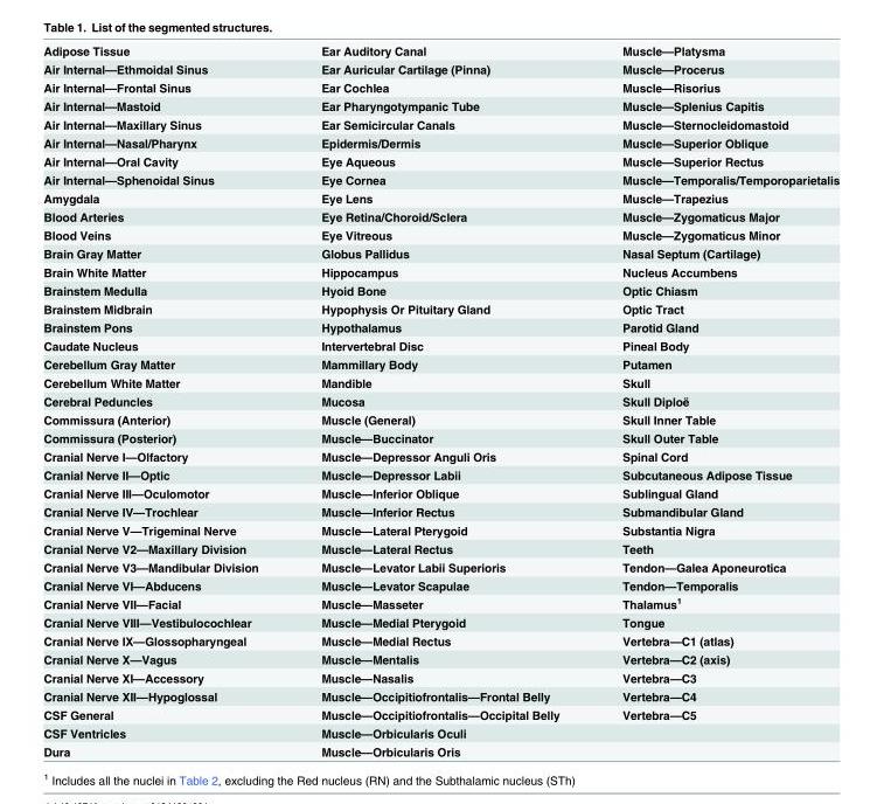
<table><tbody><tr><td>Adipose Tissue</td><td>Ear Auditory Canal</td><td>Muscle—Platysma</td></tr><tr><td>Air Internal—Ethmoidal Sinus</td><td>Ear Auricular Cartilage (Pinna)</td><td>Muscle—Procerus</td></tr><tr><td>Air Internal—Frontal Sinus</td><td>Ear Cochlea</td><td>Muscle—Risorius</td></tr><tr><td>Air Internal—Mastoid</td><td>Ear Pharyngotympanic Tube</td><td>Muscle—Splenius Capitis</td></tr><tr><td>Air Internal—Maxillary Sinus</td><td>Ear Semicircular Canals</td><td>Muscle—Sternocleidomastoid</td></tr><tr><td>Air Internal—Nasal/Pharynx</td><td>Epidermis/Dermis</td><td>Muscle—Superior Oblique</td></tr><tr><td>Air Internal—Oral Cavity</td><td>Eye Aqueous</td><td>Muscle—Superior Rectus</td></tr><tr><td>Air Internal—Sphenoidal Sinus</td><td>Eye Cornea</td><td>Muscle—Temporalis/Temporoparietalis</td></tr><tr><td>Amygdala</td><td>Eye Lens</td><td>Muscle—Trapezius</td></tr><tr><td>Blood Arteries</td><td>Eye Retina/Choroid/Sclera</td><td>Muscle—Zygomaticus Major</td></tr><tr><td>Blood Veins</td><td>Eye Vitreous</td><td>Muscle—Zygomaticus Minor</td></tr><tr><td>Brain Gray Matter</td><td>Globus Pallidus</td><td>Nasal Septum (Cartilage)</td></tr><tr><td>Brain White Matter</td><td>Hippocampus</td><td>Nucleus Accumbens</td></tr><tr><td>Brainstem Medulla</td><td>Hyoid Bone</td><td>Optic Chiasm</td></tr><tr><td>Brainstem Midbrain</td><td>Hypophysis Or Pituitary Gland</td><td>Optic Tract</td></tr><tr><td>Brainstem Pons</td><td>Hypothalamus</td><td>Parotid Gland</td></tr><tr><td>Caudate Nucleus</td><td>Intervertebral Disc</td><td>Pineal Body</td></tr><tr><td>Cerebellum Gray Matter</td><td>Mammillary Body</td><td>Putamen</td></tr><tr><td>Cerebellum White Matter</td><td>Mandible</td><td>Skull</td></tr><tr><td>Cerebral Peduncles</td><td>Mucosa</td><td>Skull Diploë</td></tr><tr><td>Commissura (Anterior)</td><td>Muscle (General)</td><td>Skull Inner Table</td></tr><tr><td>Commissura (Posterior)</td><td>Muscle—Buccinator</td><td>Skull Outer Table</td></tr><tr><td>Cranial Nerve I—Olfactory</td><td>Muscle—Depressor Anguli Oris</td><td>Spinal Cord</td></tr><tr><td>Cranial Nerve II—Optic</td><td>Muscle—Depressor Labii</td><td>Subcutaneous Adipose Tissue</td></tr><tr><td>Cranial Nerve III—Oculomotor</td><td>Muscle—Inferior Oblique</td><td>Sublingual Gland</td></tr><tr><td>Cranial Nerve IV—Trochlear</td><td>Muscle—Inferior Rectus</td><td>Submandibular Gland</td></tr><tr><td>Cranial Nerve V—Trigeminal Nerve</td><td>Muscle—Lateral Pterygoid</td><td>Substantia Nigra</td></tr><tr><td>Cranial Nerve V2—Maxillary Division</td><td>Muscle—Lateral Rectus</td><td>Teeth</td></tr><tr><td>Cranial Nerve V3—Mandibular Division</td><td>Muscle—Levator Labii Superioris</td><td>Tendon—Galea Aponeurotica</td></tr><tr><td>Cranial Nerve VI—Abducens</td><td>Muscle—Levator Scapulae</td><td>Tendon—Temporalis</td></tr><tr><td>Cranial Nerve VII—Facial</td><td>Muscle—Masseter</td><td>Thalamus<sup>1</sup></td></tr><tr><td>Cranial Nerve VIII—Vestibulocochlear</td><td>Muscle—Medial Pterygoid</td><td>Tongue</td></tr><tr><td>Cranial Nerve IX—Glossopharyngeal</td><td>Muscle—Medial Rectus</td><td>Vertebra—C1 (atlas)</td></tr><tr><td>Cranial Nerve X—Vagus</td><td>Muscle—Mentalis</td><td>Vertebra—C2 (axis)</td></tr><tr><td>Cranial Nerve XI—Accessory</td><td>Muscle—Nasalis</td><td>Vertebra—C3</td></tr><tr><td>Cranial Nerve XII—Hypoglossal</td><td>Muscle—Occipitiofrontalis—Frontal Belly</td><td>Vertebra—C4</td></tr><tr><td>CSF General</td><td>Muscle—Occipitiofrontalis—Occipital Belly</td><td>Vertebra—C5</td></tr><tr><td>CSF Ventricles</td><td>Muscle—Orbicularis Oculi</td><td></td></tr><tr><td>Dura</td><td>Muscle—Orbicularis Oris</td><td></td></tr></tbody></table>